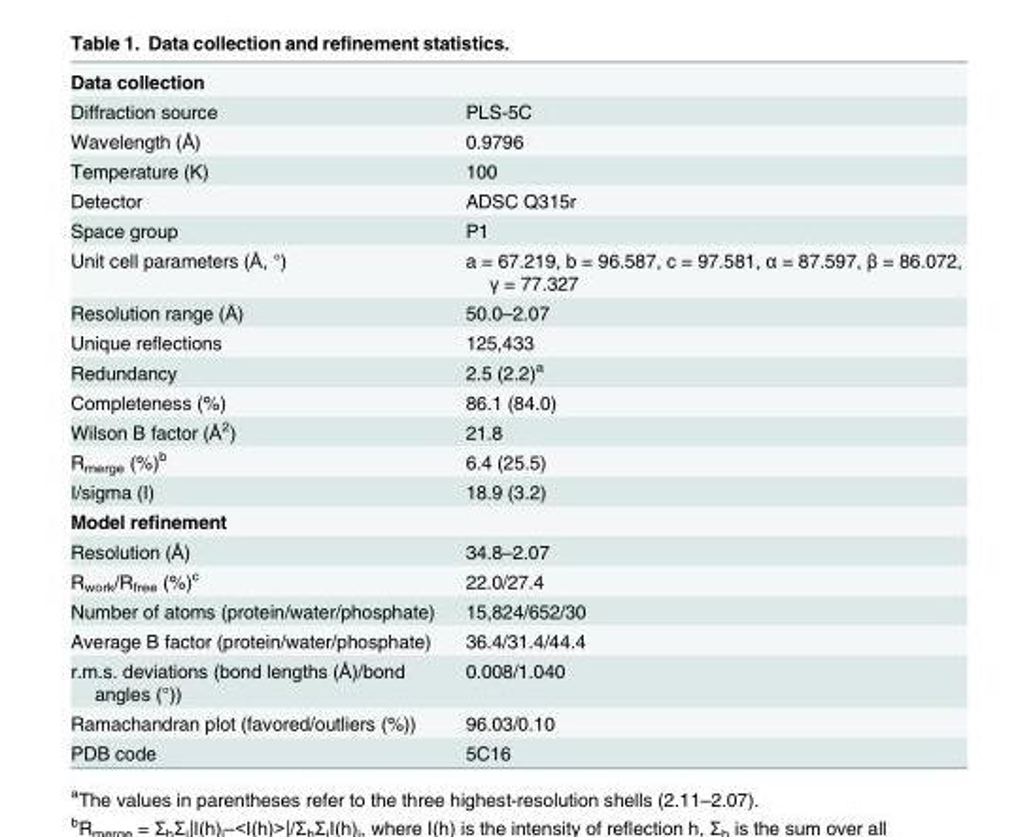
<table><tbody><tr><td colspan="2">Data collection</td></tr><tr><td>Diffraction source</td><td>PLS-5C</td></tr><tr><td>Wavelength (Å)</td><td>0.9796</td></tr><tr><td>Temperature (K)</td><td>100</td></tr><tr><td>Detector</td><td>ADSC Q315r</td></tr><tr><td>Space group</td><td>P1</td></tr><tr><td>Unit cell parameters (Å, °)</td><td>a = 67.219, b = 96.587, c = 97.581, α = 87.597, β = 86.072, γ = 77.327</td></tr><tr><td>Resolution range (Å)</td><td>50.0–2.07</td></tr><tr><td>Unique reflections</td><td>125,433</td></tr><tr><td>Redundancy</td><td>2.5 (2.2)<sup>a</sup></td></tr><tr><td>Completeness (%)</td><td>86.1 (84.0)</td></tr><tr><td>Wilson B factor (Å<sup>2</sup>)</td><td>21.8</td></tr><tr><td>R<sub>merge</sub> (%)<sup>b</sup></td><td>6.4 (25.5)</td></tr><tr><td>I/sigma (I)</td><td>18.9 (3.2)</td></tr><tr><td colspan="2">Model refinement</td></tr><tr><td>Resolution (Å)</td><td>34.8–2.07</td></tr><tr><td>R<sub>work</sub>/R<sub>free</sub> (%)<sup>c</sup></td><td>22.0/27.4</td></tr><tr><td>Number of atoms (protein/water/phosphate)</td><td>15,824/652/30</td></tr><tr><td>Average B factor (protein/water/phosphate)</td><td>36.4/31.4/44.4</td></tr><tr><td>r.m.s. deviations (bond lengths (Å)/bond angles (°))</td><td>0.008/1.040</td></tr><tr><td>Ramachandran plot (favored/outliers (%))</td><td>96.03/0.10</td></tr><tr><td>PDB code</td><td>5C16</td></tr></tbody></table>